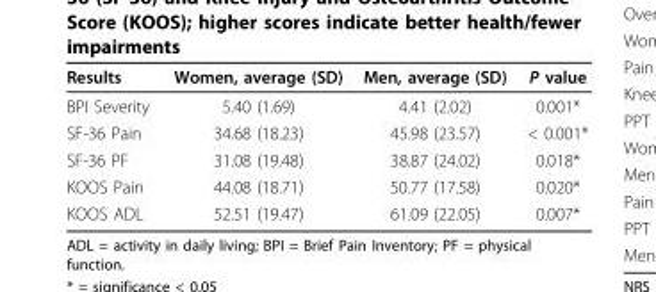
<table><thead><tr><td>Results</td><td>Women, average (SD)</td><td>Men, average (SD)</td><td>P value</td></tr></thead><tbody><tr><td>BPI Severity</td><td>5.40 (1.69)</td><td>4.41 (2.02)</td><td>0.001*</td></tr><tr><td>SF-36 Pain</td><td>34.68 (18.23)</td><td>45.98 (23.57)</td><td>&lt; 0.001*</td></tr><tr><td>SF-36 PF</td><td>31.08 (19.48)</td><td>38.87 (24.02)</td><td>0.018*</td></tr><tr><td>KOOS Pain</td><td>44.08 (18.71)</td><td>50.77 (17.58)</td><td>0.020*</td></tr><tr><td>KOOS ADL</td><td>52.51 (19.47)</td><td>61.09 (22.05)</td><td>0.007*</td></tr></tbody></table>